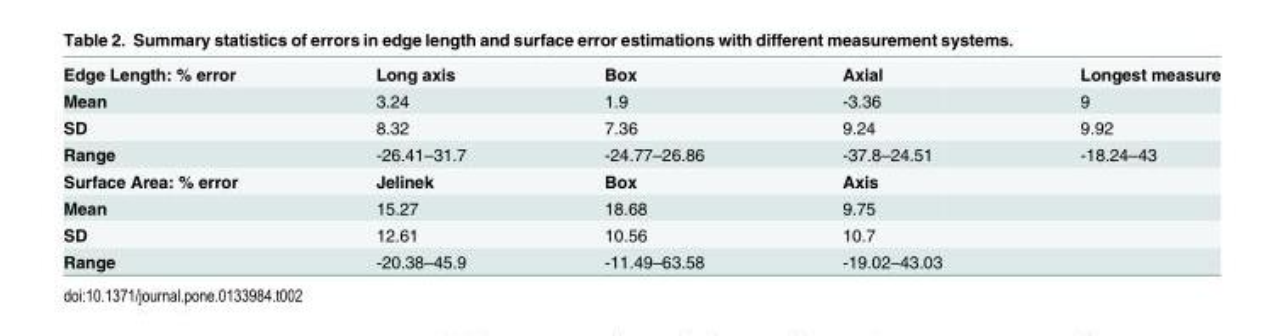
<table><tbody><tr><td>Edge Length: % error</td><td>Long axis</td><td>Box</td><td>Axial</td><td>Longest measure</td></tr><tr><td>Mean</td><td>3.24</td><td>1.9</td><td>-3.36</td><td>9</td></tr><tr><td>SD</td><td>8.32</td><td>7.36</td><td>9.24</td><td>9.92</td></tr><tr><td>Range</td><td>-26.41–31.7</td><td>-24.77–26.86</td><td>-37.8–24.51</td><td>-18.24–43</td></tr><tr><td>Surface Area: % error</td><td>Jelinek</td><td>Box</td><td>Axis</td><td></td></tr><tr><td>Mean</td><td>15.27</td><td>18.68</td><td>9.75</td><td></td></tr><tr><td>SD</td><td>12.61</td><td>10.56</td><td>10.7</td><td></td></tr><tr><td>Range</td><td>-20.38–45.9</td><td>-11.49–63.58</td><td>-19.02–43.03</td><td></td></tr></tbody></table>